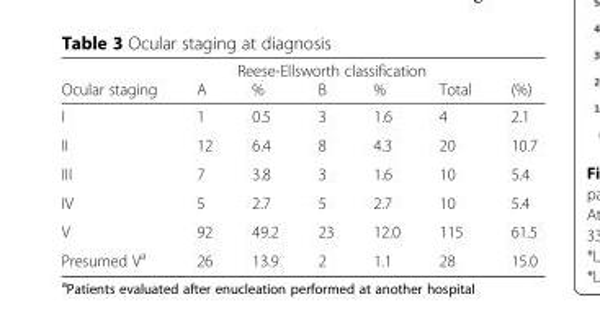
<table><thead><tr><td colspan="7">Reese-Ellsworth classification</td></tr><tr><td>Ocular staging</td><td>A</td><td>%</td><td>B</td><td>%</td><td>Total</td><td>(%)</td></tr></thead><tbody><tr><td>I</td><td>1</td><td>0.5</td><td>3</td><td>1.6</td><td>4</td><td>2.1</td></tr><tr><td>II</td><td>12</td><td>6.4</td><td>8</td><td>4.3</td><td>20</td><td>10.7</td></tr><tr><td>III</td><td>7</td><td>3.8</td><td>3</td><td>1.6</td><td>10</td><td>5.4</td></tr><tr><td>IV</td><td>5</td><td>2.7</td><td>5</td><td>2.7</td><td>10</td><td>5.4</td></tr><tr><td>V</td><td>92</td><td>49.2</td><td>23</td><td>12.0</td><td>115</td><td>61.5</td></tr><tr><td>Presumed V<sup>a</sup></td><td>26</td><td>13.9</td><td>2</td><td>1.1</td><td>28</td><td>15.0</td></tr></tbody></table>